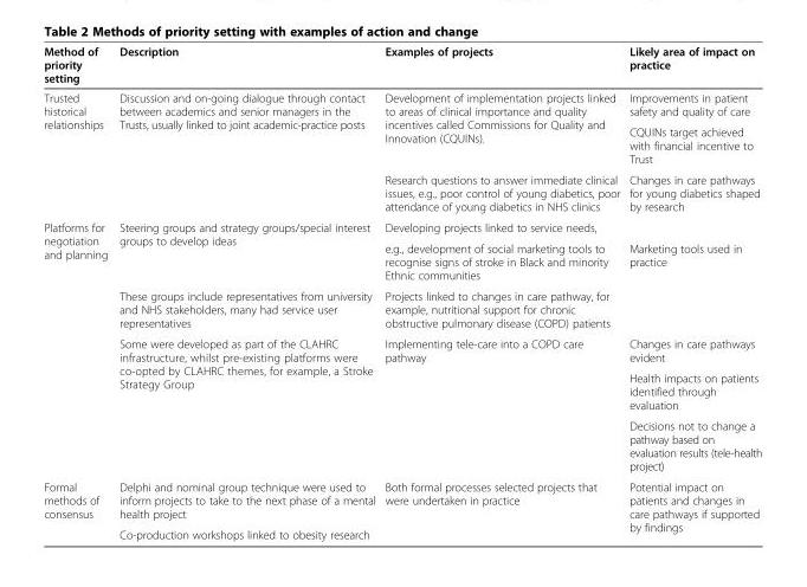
<table><thead><tr><td>Method of priority setting</td><td>Description</td><td>Examples of projects</td><td>Likely area of impact on practice</td></tr></thead><tbody><tr><td rowspan="3">Trusted historical relationships</td><td rowspan="3">Discussion and on-going dialogue through contact between academics and senior managers in the Trusts, usually linked to joint academic-practice posts</td><td rowspan="2">Development of implementation projects linked to areas of clinical importance and quality incentives called Commissions for Quality and Innovation (CQUINs).</td><td>Improvements in patient safety and quality of care</td></tr><tr><td>CQUINs target achieved with financial incentive to Trust</td></tr><tr><td>Research questions to answer immediate clinical issues, e.g., poor control of young diabetics, poor attendance of young diabetics in NHS clinics</td><td>Changes in care pathways for young diabetics shaped by research</td></tr><tr><td rowspan="6">Platforms for negotiation and planning</td><td rowspan="2">Steering groups and strategy groups/special interest groups to develop ideas</td><td>Developing projects linked to service needs,</td><td></td></tr><tr><td>e.g., development of social marketing tools to recognise signs of stroke in Black and minority Ethnic communities</td><td rowspan="2">Marketing tools used in practice</td></tr><tr><td>These groups include representatives from university and NHS stakeholders, many had service user representatives</td><td>Projects linked to changes in care pathway, for example, nutritional support for chronic obstructive pulmonary disease (COPD) patients</td></tr><tr><td rowspan="3">Some were developed as part of the CLAHRC infrastructure, whilst pre-existing platforms were co-opted by CLAHRC themes, for example, a Stroke Strategy Group</td><td rowspan="3">Implementing tele-care into a COPD care pathway</td><td>Changes in care pathways evident</td></tr><tr><td>Health impacts on patients identified through evaluation</td></tr><tr><td>Decisions not to change a pathway based on evaluation results (tele-health project)</td></tr><tr><td rowspan="2">Formal methods of consensus</td><td>Delphi and nominal group technique were used to inform projects to take to the next phase of a mental health project</td><td rowspan="2">Both formal processes selected projects that were undertaken in practice</td><td rowspan="2">Potential impact on patients and changes in care pathways if supported by findings</td></tr><tr><td>Co-production workshops linked to obesity research</td></tr></tbody></table>